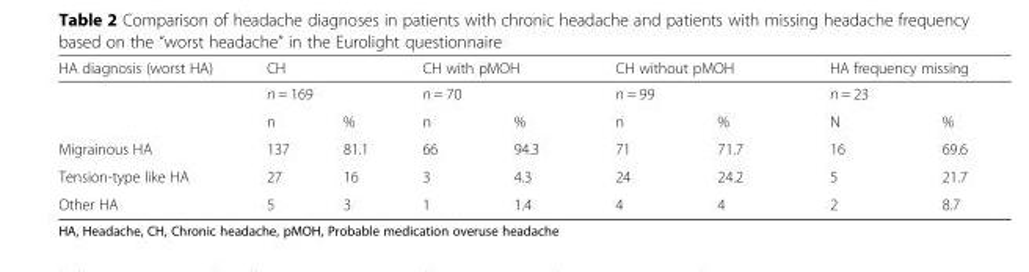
<table><thead><tr><td rowspan="3">HA diagnosis (worst HA)</td><td rowspan="2" colspan="2">CH n = 169</td><td rowspan="2" colspan="2">CH with pMOH n = 70</td><td rowspan="2" colspan="2">CH without pMOH n = 99</td><td rowspan="2" colspan="2">HA frequency missing n = 23</td></tr><tr></tr><tr><td>n</td><td>%</td><td>n</td><td>%</td><td>n</td><td>%</td><td>N</td><td>%</td></tr></thead><tbody><tr><td>Migrainous HA</td><td>137</td><td>81.1</td><td>66</td><td>94.3</td><td>71</td><td>71.7</td><td>16</td><td>69.6</td></tr><tr><td>Tension-type like HA</td><td>27</td><td>16</td><td>3</td><td>4.3</td><td>24</td><td>24.2</td><td>5</td><td>21.7</td></tr><tr><td>Other HA</td><td>5</td><td>3</td><td>1</td><td>1.4</td><td>4</td><td>4</td><td>2</td><td>8.7</td></tr></tbody></table>